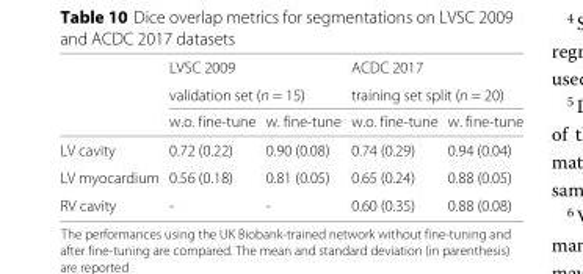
<table><thead><tr><td rowspan="3"></td><td rowspan="2" colspan="2">LVSC 2009 validation set (n = 15)</td><td rowspan="2" colspan="2">ACDC 2017 training set split (n = 20)</td></tr><tr></tr><tr><td>w.o. fine-tune</td><td>w. fine-tune</td><td>w.o. fine-tune</td><td>w. fine-tune</td></tr></thead><tbody><tr><td>LV cavity</td><td>0.72 (0.22)</td><td>0.90 (0.08)</td><td>0.74 (0.29)</td><td>0.94 (0.04)</td></tr><tr><td>LV myocardium</td><td>0.56 (0.18)</td><td>0.81 (0.05)</td><td>0.65 (0.24)</td><td>0.88 (0.05)</td></tr><tr><td>RV cavity</td><td>-</td><td>-</td><td>0.60 (0.35)</td><td>0.88 (0.08)</td></tr></tbody></table>